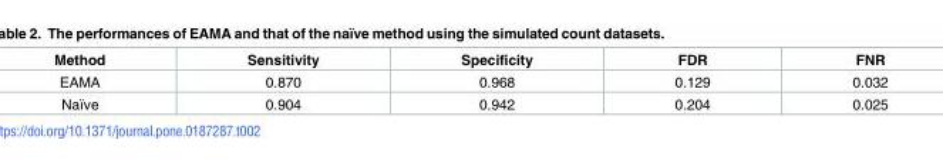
<table><thead><tr><td>Method</td><td>Sensitivity</td><td>Specificity</td><td>FDR</td><td>FNR</td></tr></thead><tbody><tr><td>EAMA</td><td>0.870</td><td>0.968</td><td>0.129</td><td>0.032</td></tr><tr><td>Naïve</td><td>0.904</td><td>0.942</td><td>0.204</td><td>0.025</td></tr></tbody></table>